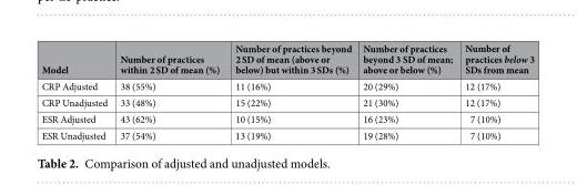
<table><thead><tr><td>Model</td><td>Number of practices within 2 SD of mean (%)</td><td>Number of practices beyond 2 SD of mean (above or below) but within 3 SDs (%)</td><td>Number of practices beyond 3 SD of mean; above or below (%)</td><td>Number of practices below 3 SDs from mean</td></tr></thead><tbody><tr><td>CRP Adjusted</td><td>38 (55%)</td><td>11 (16%)</td><td>20 (29%)</td><td>12 (17%)</td></tr><tr><td>CRP Unadjusted</td><td>33 (48%)</td><td>15 (22%)</td><td>21 (30%)</td><td>12 (17%)</td></tr><tr><td>ESR Adjusted</td><td>43 (62%)</td><td>10 (15%)</td><td>16 (23%)</td><td>7 (10%)</td></tr><tr><td>ESR Unadjusted</td><td>37 (54%)</td><td>13 (19%)</td><td>19 (28%)</td><td>7 (10%)</td></tr></tbody></table>